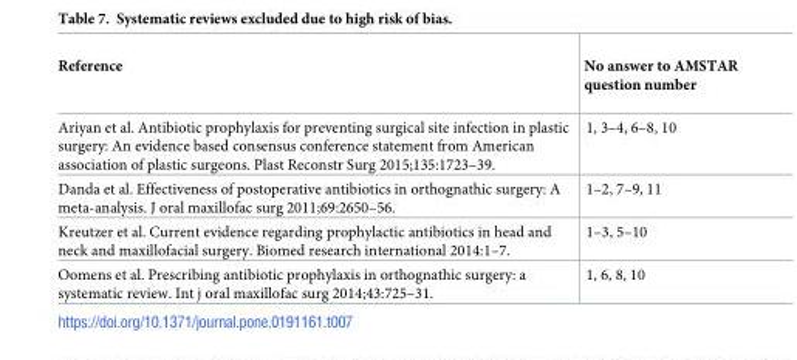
<table><thead><tr><td>Reference</td><td>No answer to AMSTAR question number</td></tr></thead><tbody><tr><td>Ariyan et al. Antibiotic prophylaxis for preventing surgical site infection in plastic surgery: An evidence based consensus conference statement from American association of plastic surgeons. Plast Reconstr Surg 2015;135:1723–39.</td><td>1, 3–4, 6–8, 10</td></tr><tr><td>Danda et al. Effectiveness of postoperative antibiotics in orthognathic surgery: A meta-analysis. J oral maxillofac surg 2011;69:2650–56.</td><td>1–2, 7–9, 11</td></tr><tr><td>Kreutzer et al. Current evidence regarding prophylactic antibiotics in head and neck and maxillofacial surgery. Biomed research international 2014:1–7.</td><td>1–3, 5–10</td></tr><tr><td>Oomens et al. Prescribing antibiotic prophylaxis in orthognathic surgery: a systematic review. Int j oral maxillofac surg 2014;43:725–31.</td><td>1, 6, 8, 10</td></tr></tbody></table>